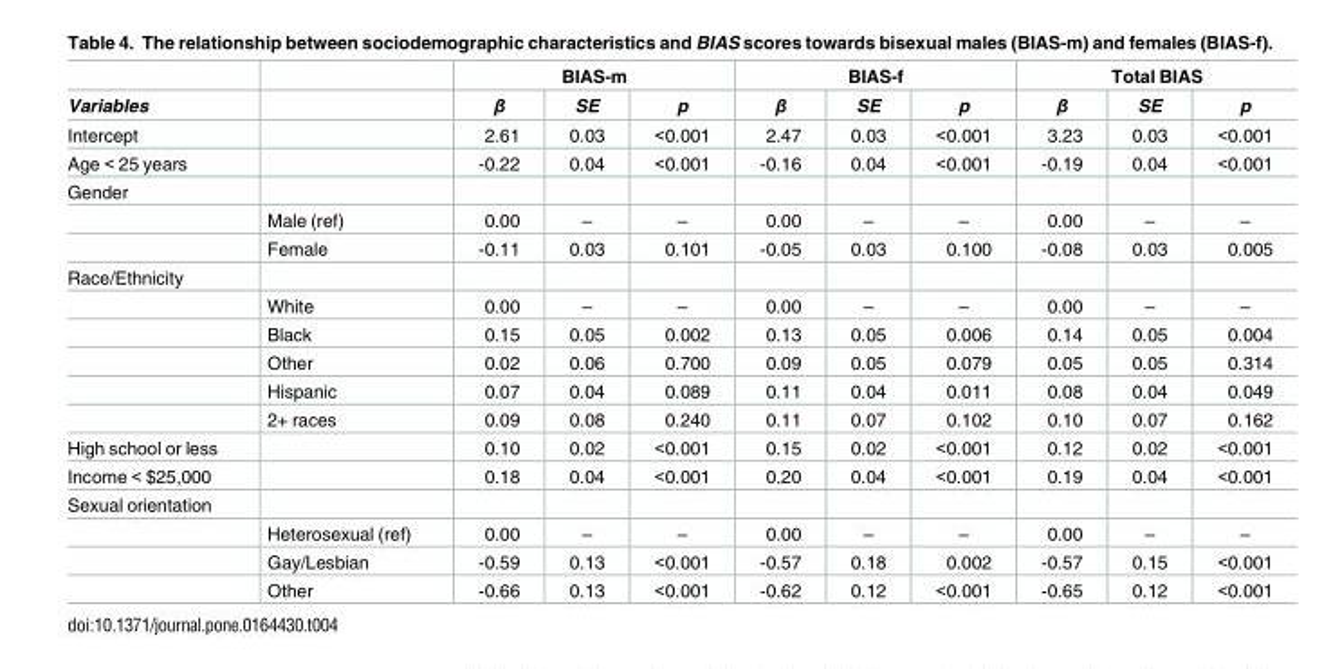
<table><thead><tr><td rowspan="2">Variables</td><td rowspan="2"></td><td colspan="3">BIAS-m</td><td colspan="3">BIAS-f</td><td colspan="3">Total BIAS</td></tr><tr><td>β</td><td>SE</td><td>p</td><td>β</td><td>SE</td><td>p</td><td>β</td><td>SE</td><td>p</td></tr></thead><tbody><tr><td>Intercept</td><td></td><td>2.61</td><td>0.03</td><td>&lt;0.001</td><td>2.47</td><td>0.03</td><td>&lt;0.001</td><td>3.23</td><td>0.03</td><td>&lt;0.001</td></tr><tr><td>Age &lt; 25 years</td><td></td><td>-0.22</td><td>0.04</td><td>&lt;0.001</td><td>-0.16</td><td>0.04</td><td>&lt;0.001</td><td>-0.19</td><td>0.04</td><td>&lt;0.001</td></tr><tr><td colspan="11">Gender</td></tr><tr><td></td><td>Male (ref)</td><td>0.00</td><td>–</td><td>–</td><td>0.00</td><td>–</td><td>–</td><td>0.00</td><td>–</td><td>–</td></tr><tr><td></td><td>Female</td><td>-0.11</td><td>0.03</td><td>0.101</td><td>-0.05</td><td>0.03</td><td>0.100</td><td>-0.08</td><td>0.03</td><td>0.005</td></tr><tr><td colspan="11">Race/Ethnicity</td></tr><tr><td></td><td>White</td><td>0.00</td><td>–</td><td>–</td><td>0.00</td><td>–</td><td>–</td><td>0.00</td><td>–</td><td>–</td></tr><tr><td></td><td>Black</td><td>0.15</td><td>0.05</td><td>0.002</td><td>0.13</td><td>0.05</td><td>0.006</td><td>0.14</td><td>0.05</td><td>0.004</td></tr><tr><td></td><td>Other</td><td>0.02</td><td>0.06</td><td>0.700</td><td>0.09</td><td>0.05</td><td>0.079</td><td>0.05</td><td>0.05</td><td>0.314</td></tr><tr><td></td><td>Hispanic</td><td>0.07</td><td>0.04</td><td>0.089</td><td>0.11</td><td>0.04</td><td>0.011</td><td>0.08</td><td>0.04</td><td>0.049</td></tr><tr><td></td><td>2+ races</td><td>0.09</td><td>0.08</td><td>0.240</td><td>0.11</td><td>0.07</td><td>0.102</td><td>0.10</td><td>0.07</td><td>0.162</td></tr><tr><td>High school or less</td><td></td><td>0.10</td><td>0.02</td><td>&lt;0.001</td><td>0.15</td><td>0.02</td><td>&lt;0.001</td><td>0.12</td><td>0.02</td><td>&lt;0.001</td></tr><tr><td>Income &lt; $25,000</td><td></td><td>0.18</td><td>0.04</td><td>&lt;0.001</td><td>0.20</td><td>0.04</td><td>&lt;0.001</td><td>0.19</td><td>0.04</td><td>&lt;0.001</td></tr><tr><td colspan="11">Sexual orientation</td></tr><tr><td></td><td>Heterosexual (ref)</td><td>0.00</td><td>–</td><td>–</td><td>0.00</td><td>–</td><td>–</td><td>0.00</td><td>–</td><td>–</td></tr><tr><td></td><td>Gay/Lesbian</td><td>-0.59</td><td>0.13</td><td>&lt;0.001</td><td>-0.57</td><td>0.18</td><td>0.002</td><td>-0.57</td><td>0.15</td><td>&lt;0.001</td></tr><tr><td></td><td>Other</td><td>-0.66</td><td>0.13</td><td>&lt;0.001</td><td>-0.62</td><td>0.12</td><td>&lt;0.001</td><td>-0.65</td><td>0.12</td><td>&lt;0.001</td></tr></tbody></table>